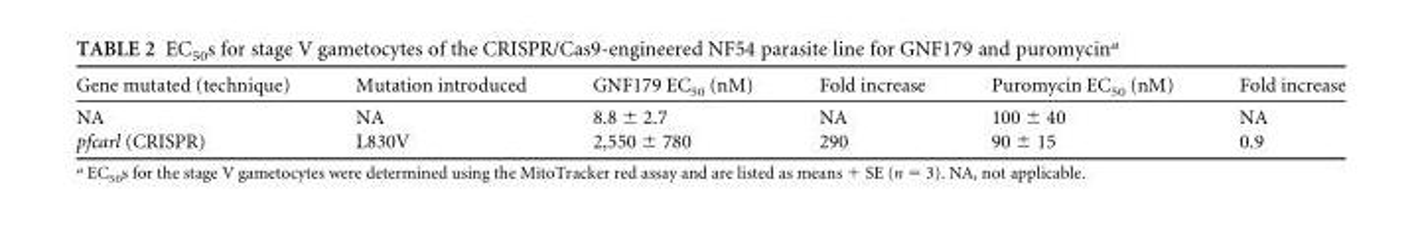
<table><thead><tr><td>Gene mutated (technique)</td><td>Mutation introduced</td><td>GNF179 EC<sub>50</sub> (nM)</td><td>Fold increase</td><td>Puromycin EC<sub>50</sub> (nM)</td><td>Fold increase</td></tr></thead><tbody><tr><td>NA</td><td>NA</td><td>8.8 ± 2.7</td><td>NA</td><td>100 ± 40</td><td>NA</td></tr><tr><td>pfcarl (CRISPR)</td><td>L830V</td><td>2,550 ± 780</td><td>290</td><td>90 ± 15</td><td>0.9</td></tr></tbody></table>